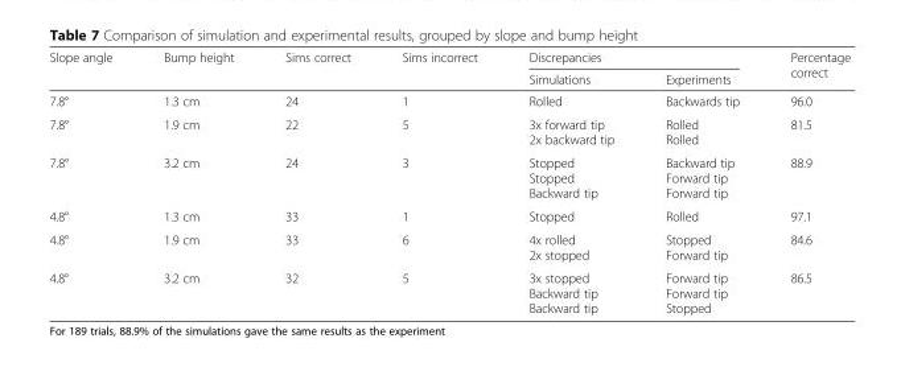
<table><thead><tr><td rowspan="2">Slope angle</td><td rowspan="2">Bump height</td><td rowspan="2">Sims correct</td><td rowspan="2">Sims incorrect</td><td colspan="2">Discrepancies</td><td rowspan="2">Percentage correct</td></tr><tr><td>Simulations</td><td>Experiments</td></tr></thead><tbody><tr><td>7.8°</td><td>1.3 cm</td><td>24</td><td>1</td><td>Rolled</td><td>Backwards tip</td><td>96.0</td></tr><tr><td>7.8°</td><td>1.9 cm</td><td>22</td><td>5</td><td>3x forward tip 2x backward tip</td><td>Rolled Rolled</td><td>81.5</td></tr><tr><td>7.8°</td><td>3.2 cm</td><td>24</td><td>3</td><td>Stopped Stopped Backward tip</td><td>Backward tip Forward tip Forward tip</td><td>88.9</td></tr><tr><td>4.8°</td><td>1.3 cm</td><td>33</td><td>1</td><td>Stopped</td><td>Rolled</td><td>97.1</td></tr><tr><td>4.8°</td><td>1.9 cm</td><td>33</td><td>6</td><td>4x rolled 2x stopped</td><td>Stopped Forward tip</td><td>84.6</td></tr><tr><td>4.8°</td><td>3.2 cm</td><td>32</td><td>5</td><td>3x stopped Backward tip Backward tip</td><td>Forward tip Forward tip Stopped</td><td>86.5</td></tr></tbody></table>